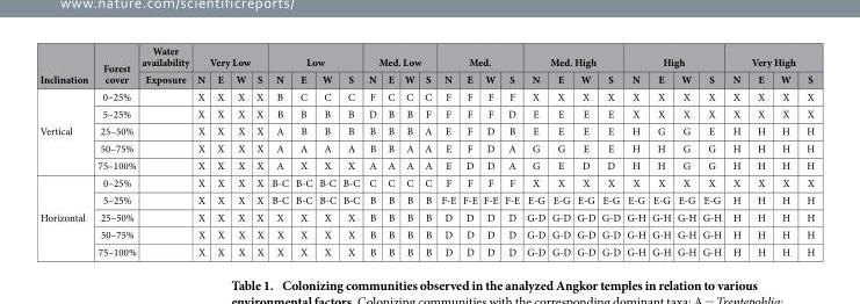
<table><thead><tr><td rowspan="2">Inclination</td><td rowspan="2">Forest cover</td><td rowspan="2">Water availability Exposure</td><td colspan="4">Very Low</td><td colspan="4">Low</td><td colspan="4">Med. Low</td><td colspan="4">Med.</td><td colspan="4">Med. High</td><td colspan="4">High</td><td colspan="4">Very High</td></tr><tr><td>N</td><td>E</td><td>W</td><td>S</td><td>N</td><td>E</td><td>W</td><td>S</td><td>N</td><td>E</td><td>W</td><td>S</td><td>N</td><td>E</td><td>W</td><td>S</td><td>N</td><td>E</td><td>W</td><td>S</td><td>N</td><td>E</td><td>W</td><td>S</td><td>N</td><td>E</td><td>W</td><td>S</td></tr></thead><tbody><tr><td rowspan="5">Vertical</td><td>0–25%</td><td></td><td>X</td><td>X</td><td>X</td><td>X</td><td>B</td><td>C</td><td>C</td><td>C</td><td>F</td><td>C</td><td>C</td><td>C</td><td>F</td><td>F</td><td>F</td><td>F</td><td>X</td><td>X</td><td>X</td><td>X</td><td>X</td><td>X</td><td>X</td><td>X</td><td>X</td><td>X</td><td>X</td><td>X</td></tr><tr><td>5–25%</td><td></td><td>X</td><td>X</td><td>X</td><td>X</td><td>B</td><td>B</td><td>B</td><td>B</td><td>D</td><td>B</td><td>B</td><td>F</td><td>F</td><td>F</td><td>F</td><td>D</td><td>E</td><td>E</td><td>E</td><td>E</td><td>X</td><td>X</td><td>X</td><td>X</td><td>X</td><td>X</td><td>X</td><td>X</td></tr><tr><td>25–50%</td><td></td><td>X</td><td>X</td><td>X</td><td>X</td><td>A</td><td>B</td><td>B</td><td>B</td><td>B</td><td>B</td><td>B</td><td>A</td><td>E</td><td>F</td><td>D</td><td>B</td><td>E</td><td>E</td><td>E</td><td>E</td><td>H</td><td>G</td><td>G</td><td>E</td><td>H</td><td>H</td><td>H</td><td>H</td></tr><tr><td>50–75%</td><td></td><td>X</td><td>X</td><td>X</td><td>X</td><td>A</td><td>A</td><td>A</td><td>A</td><td>B</td><td>B</td><td>A</td><td>A</td><td>E</td><td>F</td><td>D</td><td>A</td><td>G</td><td>G</td><td>E</td><td>E</td><td>H</td><td>H</td><td>G</td><td>G</td><td>H</td><td>H</td><td>H</td><td>H</td></tr><tr><td>75–100%</td><td></td><td>X</td><td>X</td><td>X</td><td>X</td><td>A</td><td>X</td><td>X</td><td>X</td><td>A</td><td>A</td><td>A</td><td>A</td><td>E</td><td>D</td><td>D</td><td>A</td><td>G</td><td>E</td><td>D</td><td>D</td><td>H</td><td>H</td><td>G</td><td>G</td><td>H</td><td>H</td><td>H</td><td>H</td></tr><tr><td rowspan="5">Horizontal</td><td>0–25%</td><td></td><td>X</td><td>X</td><td>X</td><td>X</td><td>B-C</td><td>B-C</td><td>B-C</td><td>B-C</td><td>C</td><td>C</td><td>C</td><td>C</td><td>F</td><td>F</td><td>F</td><td>F</td><td>X</td><td>X</td><td>X</td><td>X</td><td>X</td><td>X</td><td>X</td><td>X</td><td>X</td><td>X</td><td>X</td><td>X</td></tr><tr><td>5–25%</td><td></td><td>X</td><td>X</td><td>X</td><td>X</td><td>B-C</td><td>B-C</td><td>B-C</td><td>B-C</td><td>B</td><td>B</td><td>B</td><td>B</td><td>F-E</td><td>F-E</td><td>F-E</td><td>F-E</td><td>E-G</td><td>E-G</td><td>E-G</td><td>E-G</td><td>E-G</td><td>E-G</td><td>E-G</td><td>E-G</td><td>H</td><td>H</td><td>H</td><td>H</td></tr><tr><td>25–50%</td><td></td><td>X</td><td>X</td><td>X</td><td>X</td><td>X</td><td>X</td><td>X</td><td>X</td><td>B</td><td>B</td><td>B</td><td>B</td><td>D</td><td>D</td><td>D</td><td>D</td><td>G-D</td><td>G-D</td><td>G-D</td><td>G-D</td><td>G-H</td><td>G-H</td><td>G-H</td><td>G-H</td><td>H</td><td>H</td><td>H</td><td>H</td></tr><tr><td>50–75%</td><td></td><td>X</td><td>X</td><td>X</td><td>X</td><td>X</td><td>X</td><td>X</td><td>X</td><td>B</td><td>B</td><td>B</td><td>B</td><td>D</td><td>D</td><td>D</td><td>D</td><td>G-D</td><td>G-D</td><td>G-D</td><td>G-D</td><td>G-H</td><td>G-H</td><td>G-H</td><td>G-H</td><td>H</td><td>H</td><td>H</td><td>H</td></tr><tr><td>75–100%</td><td></td><td>X</td><td>X</td><td>X</td><td>X</td><td>X</td><td>X</td><td>X</td><td>X</td><td>B</td><td>B</td><td>B</td><td>B</td><td>D</td><td>D</td><td>D</td><td>D</td><td>G-D</td><td>G-D</td><td>G-D</td><td>G-D</td><td>G-H</td><td>G-H</td><td>G-H</td><td>G-H</td><td>H</td><td>H</td><td>H</td><td>H</td></tr></tbody></table>